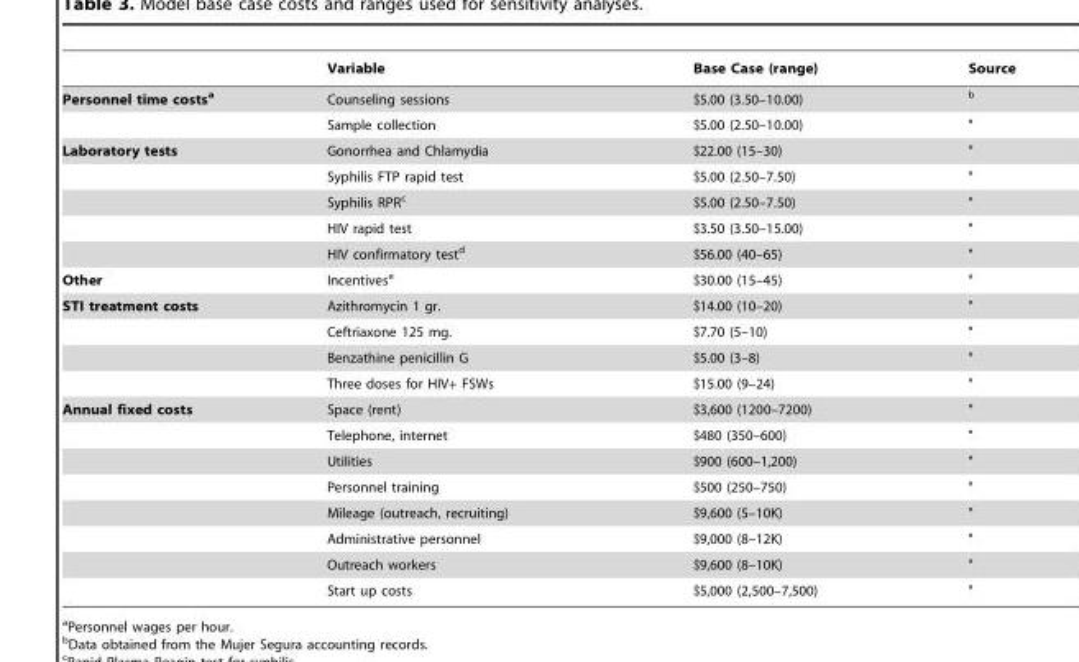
<table><thead><tr><td></td><td>Variable</td><td>Base Case (range)</td><td>Source</td></tr></thead><tbody><tr><td rowspan="2">Personnel time costsa</td><td>Counseling sessions</td><td>$5.00 (3.50–10.00)</td><td>b</td></tr><tr><td>Sample collection</td><td>$5.00 (2.50–10.00)</td><td>&quot;</td></tr><tr><td rowspan="5">Laboratory tests</td><td>Gonorrhea and Chlamydia</td><td>$22.00 (15–30)</td><td>&quot;</td></tr><tr><td>Syphilis FTP rapid test</td><td>$5.00 (2.50–7.50)</td><td>&quot;</td></tr><tr><td>Syphilis RPR<sup>c</sup></td><td>$5.00 (2.50–7.50)</td><td>&quot;</td></tr><tr><td>HIV rapid test</td><td>$3.50 (3.50–15.00)</td><td>&quot;</td></tr><tr><td>HIV confirmatory test<sup>d</sup></td><td>$56.00 (40–65)</td><td>&quot;</td></tr><tr><td>Other</td><td>Incentives<sup>e</sup></td><td>$30.00 (15–45)</td><td>&quot;</td></tr><tr><td rowspan="4">STI treatment costs</td><td>Azithromycin 1 gr.</td><td>$14.00 (10–20)</td><td>&quot;</td></tr><tr><td>Ceftriaxone 125 mg.</td><td>$7.70 (5–10)</td><td>&quot;</td></tr><tr><td>Benzathine penicillin G</td><td>$5.00 (3–8)</td><td>&quot;</td></tr><tr><td>Three doses for HIV+ FSWs</td><td>$15.00 (9–24)</td><td>&quot;</td></tr><tr><td rowspan="8">Annual fixed costs</td><td>Space (rent)</td><td>$3,600 (1200–7200)</td><td>&quot;</td></tr><tr><td>Telephone, internet</td><td>$480 (350–600)</td><td>&quot;</td></tr><tr><td>Utilities</td><td>$900 (600–1,200)</td><td>&quot;</td></tr><tr><td>Personnel training</td><td>$500 (250–750)</td><td>&quot;</td></tr><tr><td>Mileage (outreach, recruiting)</td><td>$9,600 (5–10K)</td><td>&quot;</td></tr><tr><td>Administrative personnel</td><td>$9,000 (8–12K)</td><td>&quot;</td></tr><tr><td>Outreach workers</td><td>$9,600 (8–10K)</td><td>&quot;</td></tr><tr><td>Start up costs</td><td>$5,000 (2,500–7,500)</td><td>&quot;</td></tr></tbody></table>